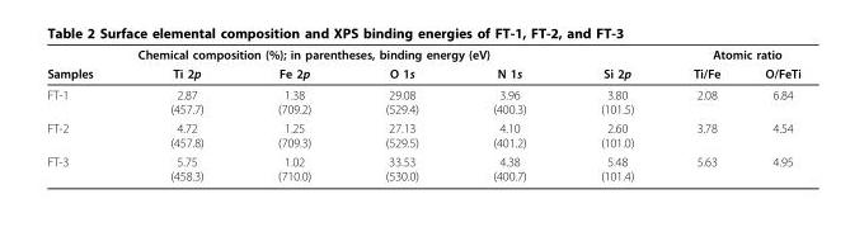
<table><thead><tr><td rowspan="2">Samples</td><td colspan="5">Chemical composition (%); in parentheses, binding energy (eV)</td><td colspan="2">Atomic ratio</td></tr><tr><td>Ti 2p</td><td>Fe 2p</td><td>O 1s</td><td>N 1s</td><td>Si 2p</td><td>Ti/Fe</td><td>O/FeTi</td></tr></thead><tbody><tr><td>FT-1</td><td>2.87 (457.7)</td><td>1.38 (709.2)</td><td>29.08 (529.4)</td><td>3.96 (400.3)</td><td>3.80 (101.5)</td><td>2.08</td><td>6.84</td></tr><tr><td>FT-2</td><td>4.72 (457.8)</td><td>1.25 (709.3)</td><td>27.13 (529.5)</td><td>4.10 (401.2)</td><td>2.60 (101.0)</td><td>3.78</td><td>4.54</td></tr><tr><td>FT-3</td><td>5.75 (458.3)</td><td>1.02 (710.0)</td><td>33.53 (530.0)</td><td>4.38 (400.7)</td><td>5.48 (101.4)</td><td>5.63</td><td>4.95</td></tr></tbody></table>